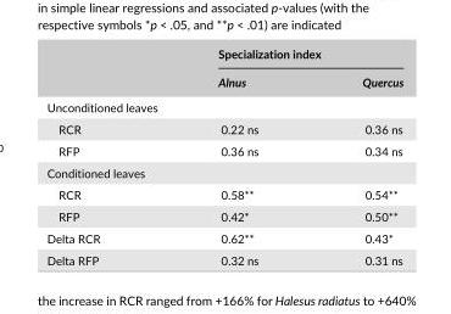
<table><thead><tr><td rowspan="2"></td><td colspan="2">Specialization index</td></tr><tr><td>Alnus</td><td>Quercus</td></tr></thead><tbody><tr><td colspan="3">Unconditioned leaves</td></tr><tr><td>RCR</td><td>0.22 ns</td><td>0.36 ns</td></tr><tr><td>RFP</td><td>0.36 ns</td><td>0.34 ns</td></tr><tr><td colspan="3">Conditioned leaves</td></tr><tr><td>RCR</td><td>0.58**</td><td>0.54**</td></tr><tr><td>RFP</td><td>0.42*</td><td>0.50**</td></tr><tr><td>Delta RCR</td><td>0.62**</td><td>0.43*</td></tr><tr><td>Delta RFP</td><td>0.32 ns</td><td>0.31 ns</td></tr></tbody></table>